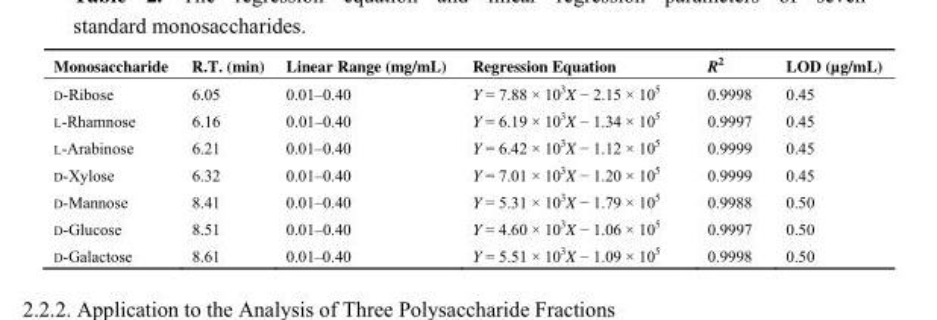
<table><thead><tr><td>Monosaccharide</td><td>R.T. (min)</td><td>Linear Range (mg/mL)</td><td>Regression Equation</td><td>R<sup>2</sup></td><td>LOD (µg/mL)</td></tr></thead><tbody><tr><td>D-Ribose</td><td>6.05</td><td>0.01–0.40</td><td>Y = 7.88 × 10<sup>3</sup>X − 2.15 × 10<sup>5</sup></td><td>0.9998</td><td>0.45</td></tr><tr><td>L-Rhamnose</td><td>6.16</td><td>0.01–0.40</td><td>Y = 6.19 × 10<sup>3</sup>X − 1.34 × 10<sup>5</sup></td><td>0.9997</td><td>0.45</td></tr><tr><td>L-Arabinose</td><td>6.21</td><td>0.01–0.40</td><td>Y = 6.42 × 10<sup>3</sup>X − 1.12 × 10<sup>5</sup></td><td>0.9999</td><td>0.45</td></tr><tr><td>D-Xylose</td><td>6.32</td><td>0.01–0.40</td><td>Y = 7.01 × 10<sup>3</sup>X − 1.20 × 10<sup>5</sup></td><td>0.9999</td><td>0.45</td></tr><tr><td>D-Mannose</td><td>8.41</td><td>0.01–0.40</td><td>Y = 5.31 × 10<sup>3</sup>X − 1.79 × 10<sup>5</sup></td><td>0.9988</td><td>0.50</td></tr><tr><td>D-Glucose</td><td>8.51</td><td>0.01–0.40</td><td>Y = 4.60 × 10<sup>3</sup>X − 1.06 × 10<sup>5</sup></td><td>0.9997</td><td>0.50</td></tr><tr><td>D-Galactose</td><td>8.61</td><td>0.01–0.40</td><td>Y = 5.51 × 10<sup>3</sup>X − 1.09 × 10<sup>5</sup></td><td>0.9998</td><td>0.50</td></tr></tbody></table>